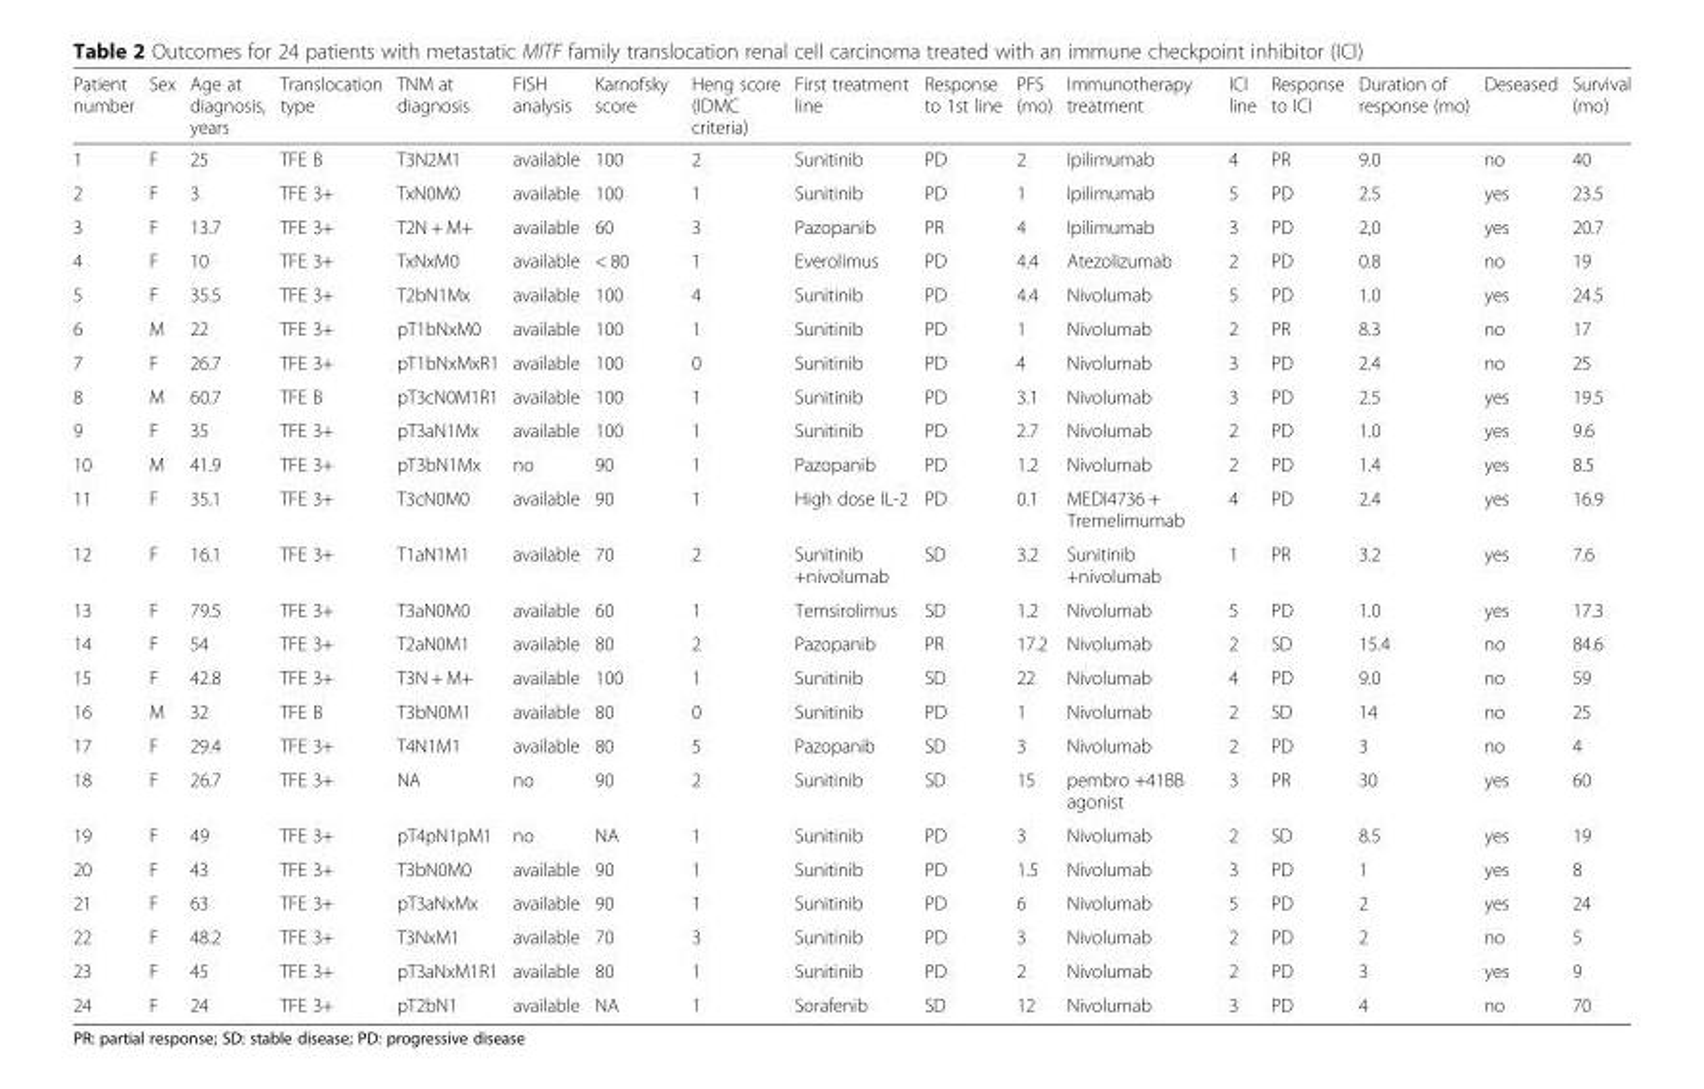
<table><thead><tr><td>Patient number</td><td>Sex</td><td>Age at diagnosis, years</td><td>Translocation type</td><td>TNM at diagnosis</td><td>FISH analysis</td><td>Karnofsky score</td><td>Heng score (IDMC criteria)</td><td>First treatment line</td><td>Response to 1st line</td><td>PFS (mo)</td><td>Immunotherapy treatment</td><td>ICI line</td><td>Response to ICI</td><td>Duration of response (mo)</td><td>Deseased</td><td>Survival (mo)</td></tr></thead><tbody><tr><td>1</td><td>F</td><td>25</td><td>TFE B</td><td>T3N2M1</td><td>available</td><td>100</td><td>2</td><td>Sunitinib</td><td>PD</td><td>2</td><td>Ipilimumab</td><td>4</td><td>PR</td><td>9.0</td><td>no</td><td>40</td></tr><tr><td>2</td><td>F</td><td>3</td><td>TFE 3+</td><td>TxN0M0</td><td>available</td><td>100</td><td>1</td><td>Sunitinib</td><td>PD</td><td>1</td><td>Ipilimumab</td><td>5</td><td>PD</td><td>2.5</td><td>yes</td><td>23.5</td></tr><tr><td>3</td><td>F</td><td>13.7</td><td>TFE 3+</td><td>T2N + M+</td><td>available</td><td>60</td><td>3</td><td>Pazopanib</td><td>PR</td><td>4</td><td>Ipilimumab</td><td>3</td><td>PD</td><td>2,0</td><td>yes</td><td>20.7</td></tr><tr><td>4</td><td>F</td><td>10</td><td>TFE 3+</td><td>TxNxM0</td><td>available</td><td>&lt; 80</td><td>1</td><td>Everolimus</td><td>PD</td><td>4.4</td><td>Atezolizumab</td><td>2</td><td>PD</td><td>0.8</td><td>no</td><td>19</td></tr><tr><td>5</td><td>F</td><td>35.5</td><td>TFE 3+</td><td>T2bN1Mx</td><td>available</td><td>100</td><td>4</td><td>Sunitinib</td><td>PD</td><td>4.4</td><td>Nivolumab</td><td>5</td><td>PD</td><td>1.0</td><td>yes</td><td>24.5</td></tr><tr><td>6</td><td>M</td><td>22</td><td>TFE 3+</td><td>pT1bNxM0</td><td>available</td><td>100</td><td>1</td><td>Sunitinib</td><td>PD</td><td>1</td><td>Nivolumab</td><td>2</td><td>PR</td><td>8.3</td><td>no</td><td>17</td></tr><tr><td>7</td><td>F</td><td>26.7</td><td>TFE 3+</td><td>pT1bNxMxR1</td><td>available</td><td>100</td><td>0</td><td>Sunitinib</td><td>PD</td><td>4</td><td>Nivolumab</td><td>3</td><td>PD</td><td>2.4</td><td>no</td><td>25</td></tr><tr><td>8</td><td>M</td><td>60.7</td><td>TFE B</td><td>pT3cN0M1R1</td><td>available</td><td>100</td><td>1</td><td>Sunitinib</td><td>PD</td><td>3.1</td><td>Nivolumab</td><td>3</td><td>PD</td><td>2.5</td><td>yes</td><td>19.5</td></tr><tr><td>9</td><td>F</td><td>35</td><td>TFE 3+</td><td>pT3aN1Mx</td><td>available</td><td>100</td><td>1</td><td>Sunitinib</td><td>PD</td><td>2.7</td><td>Nivolumab</td><td>2</td><td>PD</td><td>1.0</td><td>yes</td><td>9.6</td></tr><tr><td>10</td><td>M</td><td>41.9</td><td>TFE 3+</td><td>pT3bN1Mx</td><td>no</td><td>90</td><td>1</td><td>Pazopanib</td><td>PD</td><td>1.2</td><td>Nivolumab</td><td>2</td><td>PD</td><td>1.4</td><td>yes</td><td>8.5</td></tr><tr><td>11</td><td>F</td><td>35.1</td><td>TFE 3+</td><td>T3cN0M0</td><td>available</td><td>90</td><td>1</td><td>High dose IL-2</td><td>PD</td><td>0.1</td><td>MEDI4736 + Tremelimumab</td><td>4</td><td>PD</td><td>2.4</td><td>yes</td><td>16.9</td></tr><tr><td>12</td><td>F</td><td>16.1</td><td>TFE 3+</td><td>T1aN1M1</td><td>available</td><td>70</td><td>2</td><td>Sunitinib +nivolumab</td><td>SD</td><td>3.2</td><td>Sunitinib +nivolumab</td><td>1</td><td>PR</td><td>3.2</td><td>yes</td><td>7.6</td></tr><tr><td>13</td><td>F</td><td>79.5</td><td>TFE 3+</td><td>T3aN0M0</td><td>available</td><td>60</td><td>1</td><td>Temsirolimus</td><td>SD</td><td>1.2</td><td>Nivolumab</td><td>5</td><td>PD</td><td>1.0</td><td>yes</td><td>17.3</td></tr><tr><td>14</td><td>F</td><td>54</td><td>TFE 3+</td><td>T2aN0M1</td><td>available</td><td>80</td><td>2</td><td>Pazopanib</td><td>PR</td><td>17.2</td><td>Nivolumab</td><td>2</td><td>SD</td><td>15.4</td><td>no</td><td>84.6</td></tr><tr><td>15</td><td>F</td><td>42.8</td><td>TFE 3+</td><td>T3N + M+</td><td>available</td><td>100</td><td>1</td><td>Sunitinib</td><td>SD</td><td>22</td><td>Nivolumab</td><td>4</td><td>PD</td><td>9.0</td><td>no</td><td>59</td></tr><tr><td>16</td><td>M</td><td>32</td><td>TFE B</td><td>T3bN0M1</td><td>available</td><td>80</td><td>0</td><td>Sunitinib</td><td>PD</td><td>1</td><td>Nivolumab</td><td>2</td><td>SD</td><td>14</td><td>no</td><td>25</td></tr><tr><td>17</td><td>F</td><td>29.4</td><td>TFE 3+</td><td>T4N1M1</td><td>available</td><td>80</td><td>5</td><td>Pazopanib</td><td>SD</td><td>3</td><td>Nivolumab</td><td>2</td><td>PD</td><td>3</td><td>no</td><td>4</td></tr><tr><td>18</td><td>F</td><td>26.7</td><td>TFE 3+</td><td>NA</td><td>no</td><td>90</td><td>2</td><td>Sunitinib</td><td>SD</td><td>15</td><td>pembro +41BB agonist</td><td>3</td><td>PR</td><td>30</td><td>yes</td><td>60</td></tr><tr><td>19</td><td>F</td><td>49</td><td>TFE 3+</td><td>pT4pN1pM1</td><td>no</td><td>NA</td><td>1</td><td>Sunitinib</td><td>PD</td><td>3</td><td>Nivolumab</td><td>2</td><td>SD</td><td>8.5</td><td>yes</td><td>19</td></tr><tr><td>20</td><td>F</td><td>43</td><td>TFE 3+</td><td>T3bN0M0</td><td>available</td><td>90</td><td>1</td><td>Sunitinib</td><td>PD</td><td>1.5</td><td>Nivolumab</td><td>3</td><td>PD</td><td>1</td><td>yes</td><td>8</td></tr><tr><td>21</td><td>F</td><td>63</td><td>TFE 3+</td><td>pT3aNxMx</td><td>available</td><td>90</td><td>1</td><td>Sunitinib</td><td>PD</td><td>6</td><td>Nivolumab</td><td>5</td><td>PD</td><td>2</td><td>yes</td><td>24</td></tr><tr><td>22</td><td>F</td><td>48.2</td><td>TFE 3+</td><td>T3NxM1</td><td>available</td><td>70</td><td>3</td><td>Sunitinib</td><td>PD</td><td>3</td><td>Nivolumab</td><td>2</td><td>PD</td><td>2</td><td>no</td><td>5</td></tr><tr><td>23</td><td>F</td><td>45</td><td>TFE 3+</td><td>pT3aNxM1R1</td><td>available</td><td>80</td><td>1</td><td>Sunitinib</td><td>PD</td><td>2</td><td>Nivolumab</td><td>2</td><td>PD</td><td>3</td><td>yes</td><td>9</td></tr><tr><td>24</td><td>F</td><td>24</td><td>TFE 3+</td><td>pT2bN1</td><td>available</td><td>NA</td><td>1</td><td>Sorafenib</td><td>SD</td><td>12</td><td>Nivolumab</td><td>3</td><td>PD</td><td>4</td><td>no</td><td>70</td></tr></tbody></table>